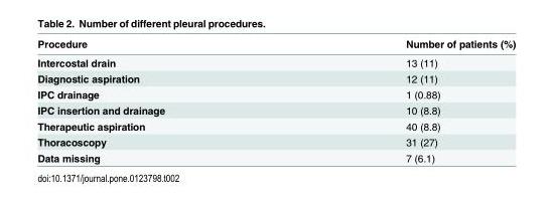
<table><thead><tr><td>Procedure</td><td>Number of patients (%)</td></tr></thead><tbody><tr><td>Intercostal drain</td><td>13 (11)</td></tr><tr><td>Diagnostic aspiration</td><td>12 (11)</td></tr><tr><td>IPC drainage</td><td>1 (0.88)</td></tr><tr><td>IPC insertion and drainage</td><td>10 (8.8)</td></tr><tr><td>Therapeutic aspiration</td><td>40 (8.8)</td></tr><tr><td>Thoracoscopy</td><td>31 (27)</td></tr><tr><td>Data missing</td><td>7 (6.1)</td></tr></tbody></table>